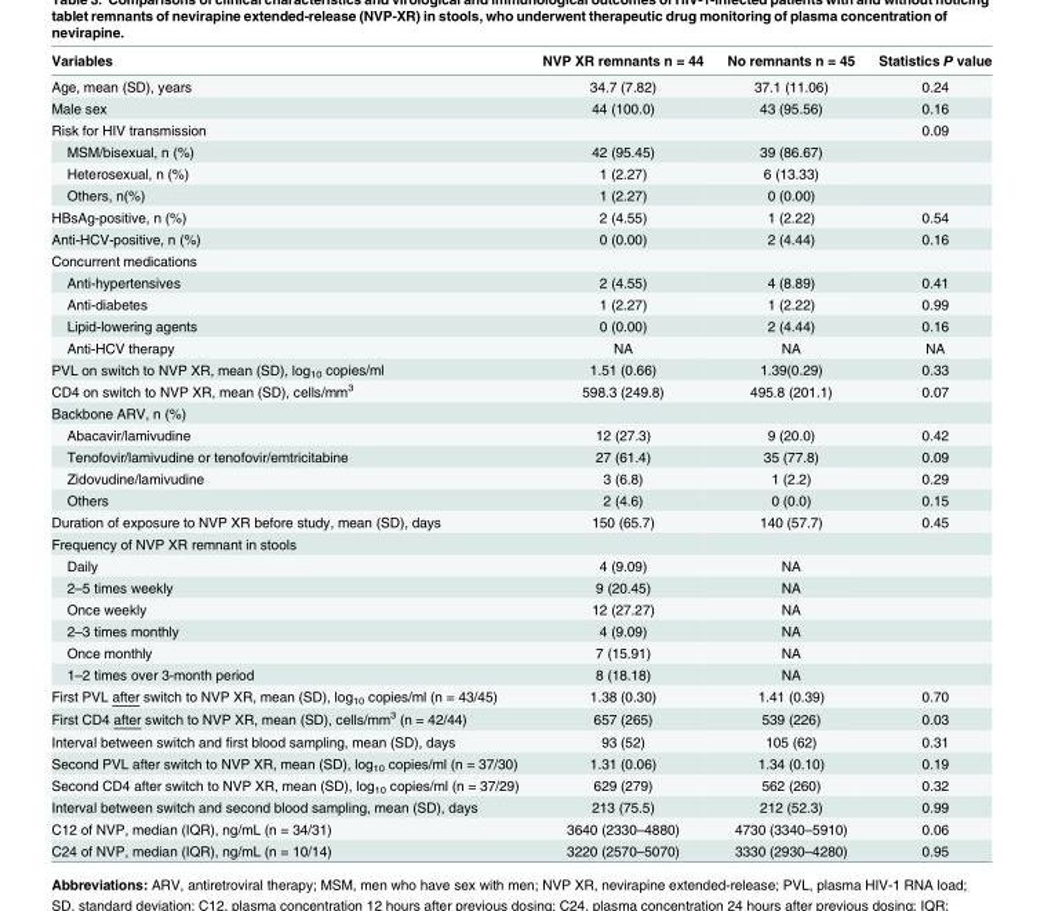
<table><thead><tr><td>Variables</td><td>NVP XR remnants n = 44</td><td>No remnants n = 45</td><td>Statistics P value</td></tr></thead><tbody><tr><td>Age, mean (SD), years</td><td>34.7 (7.82)</td><td>37.1 (11.06)</td><td>0.24</td></tr><tr><td>Male sex</td><td>44 (100.0)</td><td>43 (95.56)</td><td>0.16</td></tr><tr><td>Risk for HIV transmission</td><td></td><td></td><td>0.09</td></tr><tr><td>MSM/bisexual, n (%)</td><td>42 (95.45)</td><td>39 (86.67)</td><td></td></tr><tr><td>Heterosexual, n (%)</td><td>1 (2.27)</td><td>6 (13.33)</td><td></td></tr><tr><td>Others, n(%)</td><td>1 (2.27)</td><td>0 (0.00)</td><td></td></tr><tr><td>HBsAg-positive, n (%)</td><td>2 (4.55)</td><td>1 (2.22)</td><td>0.54</td></tr><tr><td>Anti-HCV-positive, n (%)</td><td>0 (0.00)</td><td>2 (4.44)</td><td>0.16</td></tr><tr><td colspan="4">Concurrent medications</td></tr><tr><td>Anti-hypertensives</td><td>2 (4.55)</td><td>4 (8.89)</td><td>0.41</td></tr><tr><td>Anti-diabetes</td><td>1 (2.27)</td><td>1 (2.22)</td><td>0.99</td></tr><tr><td>Lipid-lowering agents</td><td>0 (0.00)</td><td>2 (4.44)</td><td>0.16</td></tr><tr><td>Anti-HCV therapy</td><td>NA</td><td>NA</td><td>NA</td></tr><tr><td>PVL on switch to NVP XR, mean (SD), log<sub>10</sub> copies/ml</td><td>1.51 (0.66)</td><td>1.39(0.29)</td><td>0.33</td></tr><tr><td>CD4 on switch to NVP XR, mean (SD), cells/mm<sup>3</sup></td><td>598.3 (249.8)</td><td>495.8 (201.1)</td><td>0.07</td></tr><tr><td colspan="4">Backbone ARV, n (%)</td></tr><tr><td>Abacavir/lamivudine</td><td>12 (27.3)</td><td>9 (20.0)</td><td>0.42</td></tr><tr><td>Tenofovir/lamivudine or tenofovir/emtricitabine</td><td>27 (61.4)</td><td>35 (77.8)</td><td>0.09</td></tr><tr><td>Zidovudine/lamivudine</td><td>3 (6.8)</td><td>1 (2.2)</td><td>0.29</td></tr><tr><td>Others</td><td>2 (4.6)</td><td>0 (0.0)</td><td>0.15</td></tr><tr><td>Duration of exposure to NVP XR before study, mean (SD), days</td><td>150 (65.7)</td><td>140 (57.7)</td><td>0.45</td></tr><tr><td colspan="4">Frequency of NVP XR remnant in stools</td></tr><tr><td>Daily</td><td>4 (9.09)</td><td>NA</td><td></td></tr><tr><td>2–5 times weekly</td><td>9 (20.45)</td><td>NA</td><td></td></tr><tr><td>Once weekly</td><td>12 (27.27)</td><td>NA</td><td></td></tr><tr><td>2–3 times monthly</td><td>4 (9.09)</td><td>NA</td><td></td></tr><tr><td>Once monthly</td><td>7 (15.91)</td><td>NA</td><td></td></tr><tr><td>1–2 times over 3-month period</td><td>8 (18.18)</td><td>NA</td><td></td></tr><tr><td>First PVL after switch to NVP XR, mean (SD), log<sub>10</sub> copies/ml (n = 43/45)</td><td>1.38 (0.30)</td><td>1.41 (0.39)</td><td>0.70</td></tr><tr><td>First CD4 after switch to NVP XR, mean (SD), cells/mm<sup>3</sup> (n = 42/44)</td><td>657 (265)</td><td>539 (226)</td><td>0.03</td></tr><tr><td>Interval between switch and first blood sampling, mean (SD), days</td><td>93 (52)</td><td>105 (62)</td><td>0.31</td></tr><tr><td>Second PVL after switch to NVP XR, mean (SD), log<sub>10</sub> copies/ml (n = 37/30)</td><td>1.31 (0.06)</td><td>1.34 (0.10)</td><td>0.19</td></tr><tr><td>Second CD4 after switch to NVP XR, mean (SD), log<sub>10</sub> copies/ml (n = 37/29)</td><td>629 (279)</td><td>562 (260)</td><td>0.32</td></tr><tr><td>Interval between switch and second blood sampling, mean (SD), days</td><td>213 (75.5)</td><td>212 (52.3)</td><td>0.99</td></tr><tr><td>C12 of NVP, median (IQR), ng/mL (n = 34/31)</td><td>3640 (2330–4880)</td><td>4730 (3340–5910)</td><td>0.06</td></tr><tr><td>C24 of NVP, median (IQR), ng/mL (n = 10/14)</td><td>3220 (2570–5070)</td><td>3330 (2930–4280)</td><td>0.95</td></tr></tbody></table>